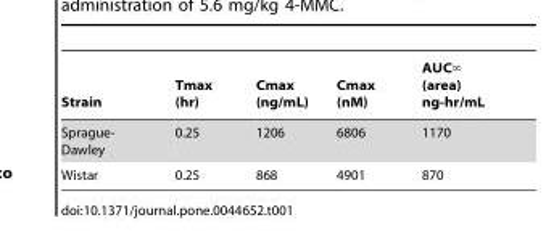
<table><thead><tr><td>Strain</td><td>Tmax (hr)</td><td>Cmax (ng/mL)</td><td>Cmax (nM)</td><td>AUC‘ (area) ng-hr/mL</td></tr></thead><tbody><tr><td>Sprague- Dawley</td><td>0.25</td><td>1206</td><td>6806</td><td>1170</td></tr><tr><td>Wistar</td><td>0.25</td><td>868</td><td>4901</td><td>870</td></tr></tbody></table>